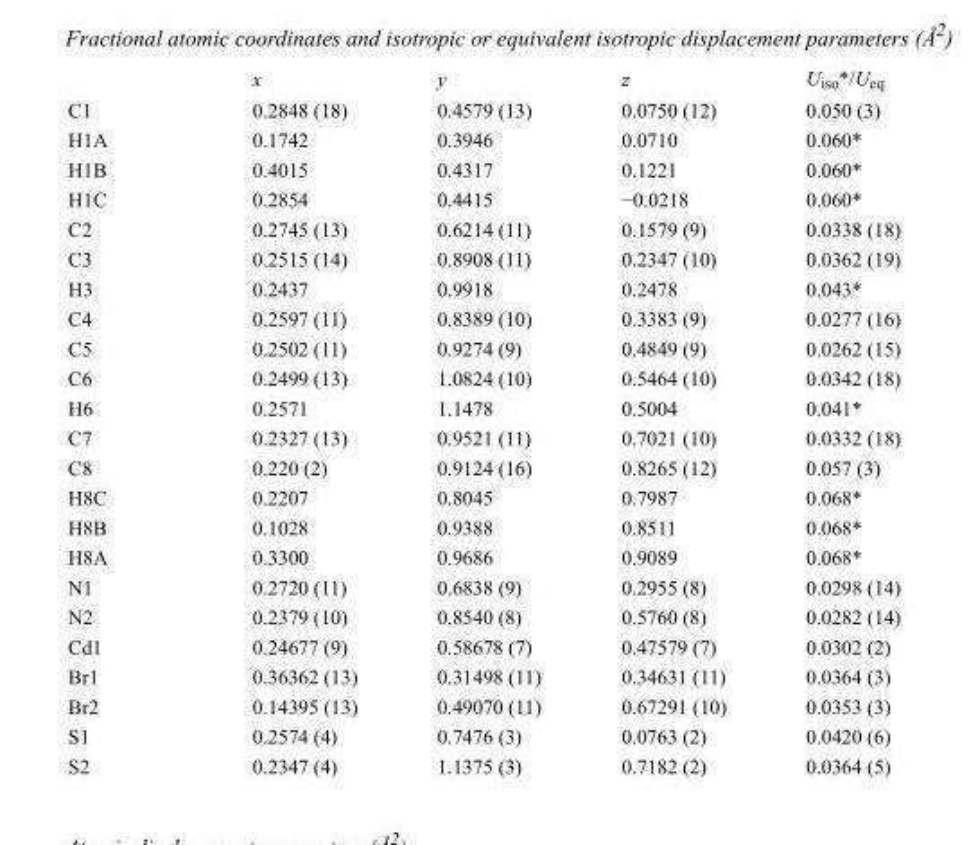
<table><thead><tr><td></td><td>x</td><td>y</td><td>z</td><td>U<sub>iso</sub>*/U<sub>eq</sub></td></tr></thead><tbody><tr><td>C1</td><td>0.2848 (18)</td><td>0.4579 (13)</td><td>0.0750 (12)</td><td>0.050 (3)</td></tr><tr><td>H1A</td><td>0.1742</td><td>0.3946</td><td>0.0710</td><td>0.060*</td></tr><tr><td>H1B</td><td>0.4015</td><td>0.4317</td><td>0.1221</td><td>0.060*</td></tr><tr><td>H1C</td><td>0.2854</td><td>0.4415</td><td>−0.0218</td><td>0.060*</td></tr><tr><td>C2</td><td>0.2745 (13)</td><td>0.6214 (11)</td><td>0.1579 (9)</td><td>0.0338 (18)</td></tr><tr><td>C3</td><td>0.2515 (14)</td><td>0.8908 (11)</td><td>0.2347 (10)</td><td>0.0362 (19)</td></tr><tr><td>H3</td><td>0.2437</td><td>0.9918</td><td>0.2478</td><td>0.043*</td></tr><tr><td>C4</td><td>0.2597 (11)</td><td>0.8389 (10)</td><td>0.3383 (9)</td><td>0.0277 (16)</td></tr><tr><td>C5</td><td>0.2502 (11)</td><td>0.9274 (9)</td><td>0.4849 (9)</td><td>0.0262 (15)</td></tr><tr><td>C6</td><td>0.2499 (13)</td><td>1.0824 (10)</td><td>0.5464 (10)</td><td>0.0342 (18)</td></tr><tr><td>H6</td><td>0.2571</td><td>1.1478</td><td>0.5004</td><td>0.041*</td></tr><tr><td>C7</td><td>0.2327 (13)</td><td>0.9521 (11)</td><td>0.7021 (10)</td><td>0.0332 (18)</td></tr><tr><td>C8</td><td>0.220 (2)</td><td>0.9124 (16)</td><td>0.8265 (12)</td><td>0.057 (3)</td></tr><tr><td>H8C</td><td>0.2207</td><td>0.8045</td><td>0.7987</td><td>0.068*</td></tr><tr><td>H8B</td><td>0.1028</td><td>0.9388</td><td>0.8511</td><td>0.068*</td></tr><tr><td>H8A</td><td>0.3300</td><td>0.9686</td><td>0.9089</td><td>0.068*</td></tr><tr><td>N1</td><td>0.2720 (11)</td><td>0.6838 (9)</td><td>0.2955 (8)</td><td>0.0298 (14)</td></tr><tr><td>N2</td><td>0.2379 (10)</td><td>0.8540 (8)</td><td>0.5760 (8)</td><td>0.0282 (14)</td></tr><tr><td>Cd1</td><td>0.24677 (9)</td><td>0.58678 (7)</td><td>0.47579 (7)</td><td>0.0302 (2)</td></tr><tr><td>Br1</td><td>0.36362 (13)</td><td>0.31498 (11)</td><td>0.34631 (11)</td><td>0.0364 (3)</td></tr><tr><td>Br2</td><td>0.14395 (13)</td><td>0.49070 (11)</td><td>0.67291 (10)</td><td>0.0353 (3)</td></tr><tr><td>S1</td><td>0.2574 (4)</td><td>0.7476 (3)</td><td>0.0763 (2)</td><td>0.0420 (6)</td></tr><tr><td>S2</td><td>0.2347 (4)</td><td>1.1375 (3)</td><td>0.7182 (2)</td><td>0.0364 (5)</td></tr></tbody></table>